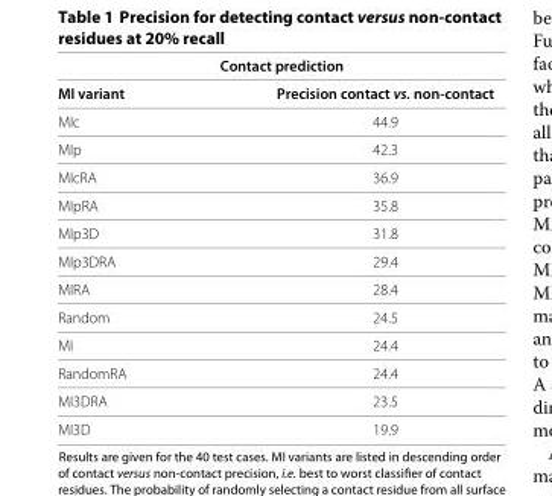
<table><thead><tr><td colspan="2">Contact prediction</td></tr><tr><td>MI variant</td><td>Precision contact vs. non-contact</td></tr></thead><tbody><tr><td>MIc</td><td>44.9</td></tr><tr><td>MIp</td><td>42.3</td></tr><tr><td>MIcRA</td><td>36.9</td></tr><tr><td>MIpRA</td><td>35.8</td></tr><tr><td>MIp3D</td><td>31.8</td></tr><tr><td>MIp3DRA</td><td>29.4</td></tr><tr><td>MIRA</td><td>28.4</td></tr><tr><td>Random</td><td>24.5</td></tr><tr><td>MI</td><td>24.4</td></tr><tr><td>RandomRA</td><td>24.4</td></tr><tr><td>MI3DRA</td><td>23.5</td></tr><tr><td>MI3D</td><td>19.9</td></tr></tbody></table>